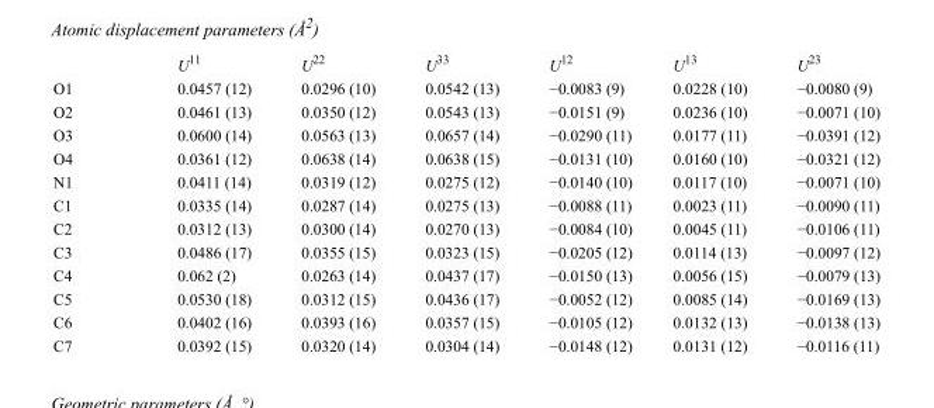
<table><thead><tr><td></td><td>U<sup>11</sup></td><td>U<sup>22</sup></td><td>U<sup>33</sup></td><td>U<sup>12</sup></td><td>U<sup>13</sup></td><td>U<sup>23</sup></td></tr></thead><tbody><tr><td>O1</td><td>0.0457 (12)</td><td>0.0296 (10)</td><td>0.0542 (13)</td><td>−0.0083 (9)</td><td>0.0228 (10)</td><td>−0.0080 (9)</td></tr><tr><td>O2</td><td>0.0461 (13)</td><td>0.0350 (12)</td><td>0.0543 (13)</td><td>−0.0151 (9)</td><td>0.0236 (10)</td><td>−0.0071 (10)</td></tr><tr><td>O3</td><td>0.0600 (14)</td><td>0.0563 (13)</td><td>0.0657 (14)</td><td>−0.0290 (11)</td><td>0.0177 (11)</td><td>−0.0391 (12)</td></tr><tr><td>O4</td><td>0.0361 (12)</td><td>0.0638 (14)</td><td>0.0638 (15)</td><td>−0.0131 (10)</td><td>0.0160 (10)</td><td>−0.0321 (12)</td></tr><tr><td>N1</td><td>0.0411 (14)</td><td>0.0319 (12)</td><td>0.0275 (12)</td><td>−0.0140 (10)</td><td>0.0117 (10)</td><td>−0.0071 (10)</td></tr><tr><td>C1</td><td>0.0335 (14)</td><td>0.0287 (14)</td><td>0.0275 (13)</td><td>−0.0088 (11)</td><td>0.0023 (11)</td><td>−0.0090 (11)</td></tr><tr><td>C2</td><td>0.0312 (13)</td><td>0.0300 (14)</td><td>0.0270 (13)</td><td>−0.0084 (10)</td><td>0.0045 (11)</td><td>−0.0106 (11)</td></tr><tr><td>C3</td><td>0.0486 (17)</td><td>0.0355 (15)</td><td>0.0323 (15)</td><td>−0.0205 (12)</td><td>0.0114 (13)</td><td>−0.0097 (12)</td></tr><tr><td>C4</td><td>0.062 (2)</td><td>0.0263 (14)</td><td>0.0437 (17)</td><td>−0.0150 (13)</td><td>0.0056 (15)</td><td>−0.0079 (13)</td></tr><tr><td>C5</td><td>0.0530 (18)</td><td>0.0312 (15)</td><td>0.0436 (17)</td><td>−0.0052 (12)</td><td>0.0085 (14)</td><td>−0.0169 (13)</td></tr><tr><td>C6</td><td>0.0402 (16)</td><td>0.0393 (16)</td><td>0.0357 (15)</td><td>−0.0105 (12)</td><td>0.0132 (13)</td><td>−0.0138 (13)</td></tr><tr><td>C7</td><td>0.0392 (15)</td><td>0.0320 (14)</td><td>0.0304 (14)</td><td>−0.0148 (12)</td><td>0.0131 (12)</td><td>−0.0116 (11)</td></tr></tbody></table>